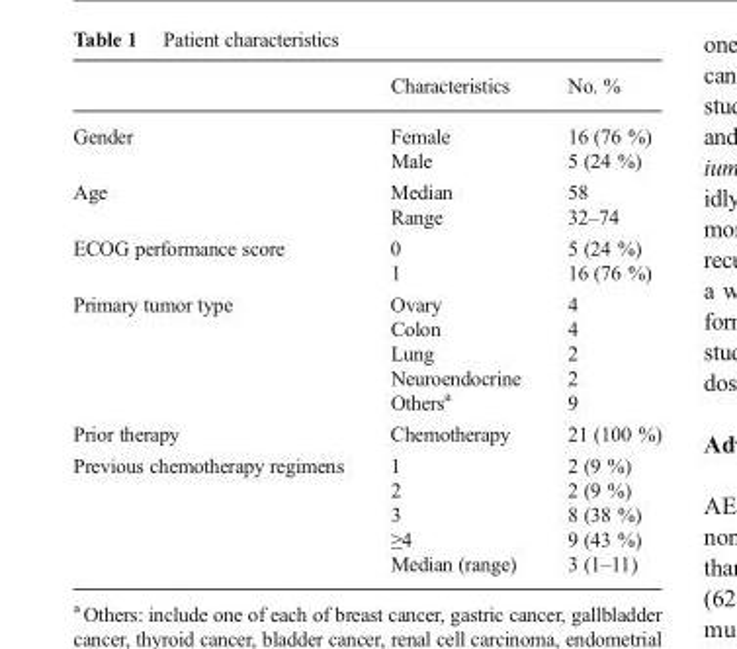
<table><thead><tr><td></td><td>Characteristics</td><td>No. %</td></tr></thead><tbody><tr><td>Gender</td><td>Female Male</td><td>16 (76 %) 5 (24 %)</td></tr><tr><td>Age</td><td>Median Range</td><td>58 32–74</td></tr><tr><td>ECOG performance score</td><td>0 1</td><td>5 (24 %) 16 (76 %)</td></tr><tr><td>Primary tumor type</td><td>Ovary Colon Lung Neuroendocrine Others<sup>a</sup></td><td>4 4 2 2 9</td></tr><tr><td>Prior therapy</td><td>Chemotherapy</td><td>21 (100 %)</td></tr><tr><td>Previous chemotherapy regimens</td><td>1 2 3 ≥4 Median (range)</td><td>2 (9 %) 2 (9 %) 8 (38 %) 9 (43 %) 3 (1–11)</td></tr></tbody></table>